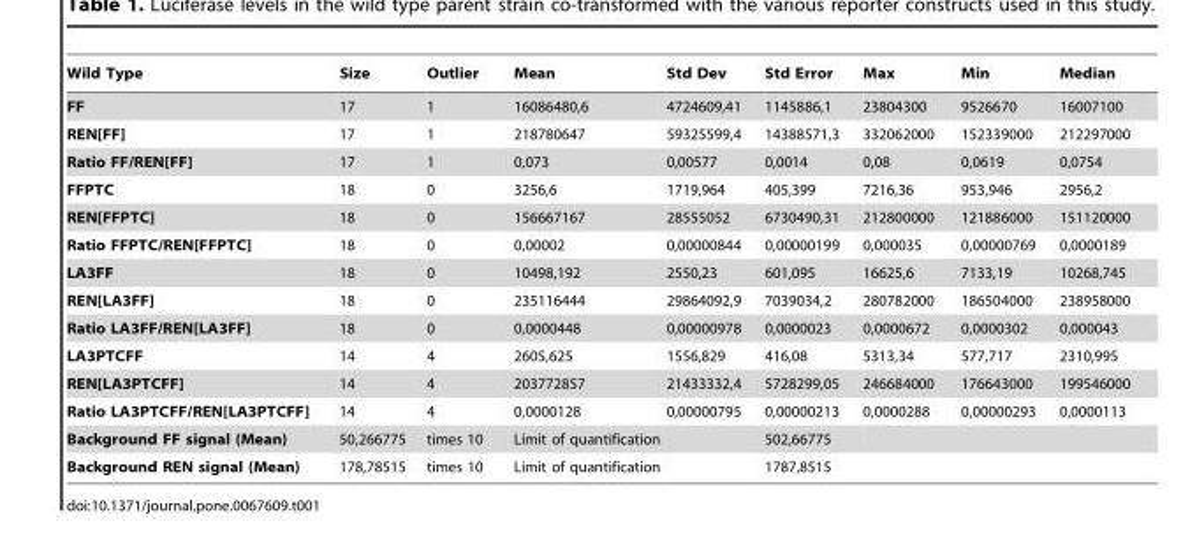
<table><thead><tr><td>Wild Type</td><td>Size</td><td>Outlier</td><td>Mean</td><td>Std Dev</td><td>Std Error</td><td>Max</td><td>Min</td><td>Median</td></tr></thead><tbody><tr><td>FF</td><td>17</td><td>1</td><td>16086480,6</td><td>4724609,41</td><td>1145886,1</td><td>23804300</td><td>9526670</td><td>16007100</td></tr><tr><td>REN[FF]</td><td>17</td><td>1</td><td>218780647</td><td>59325599,4</td><td>14388571,3</td><td>332062000</td><td>152339000</td><td>212297000</td></tr><tr><td>Ratio FF/REN[FF]</td><td>17</td><td>1</td><td>0,073</td><td>0,00577</td><td>0,0014</td><td>0,08</td><td>0,0619</td><td>0,0754</td></tr><tr><td>FFPTC</td><td>18</td><td>0</td><td>3256,6</td><td>1719,964</td><td>405,399</td><td>7216,36</td><td>953,946</td><td>2956,2</td></tr><tr><td>REN[FFPTC]</td><td>18</td><td>0</td><td>156667167</td><td>28555052</td><td>6730490,31</td><td>212800000</td><td>121886000</td><td>151120000</td></tr><tr><td>Ratio FFPTC/REN[FFPTC]</td><td>18</td><td>0</td><td>0,00002</td><td>0,00000844</td><td>0,00000199</td><td>0,000035</td><td>0,00000769</td><td>0,0000189</td></tr><tr><td>LA3FF</td><td>18</td><td>0</td><td>10498,192</td><td>2550,23</td><td>601,095</td><td>16625,6</td><td>7133,19</td><td>10268,745</td></tr><tr><td>REN[LA3FF]</td><td>18</td><td>0</td><td>235116444</td><td>29864092,9</td><td>7039034,2</td><td>280782000</td><td>186504000</td><td>238958000</td></tr><tr><td>Ratio LA3FF/REN[LA3FF]</td><td>18</td><td>0</td><td>0,0000448</td><td>0,00000978</td><td>0,0000023</td><td>0,0000672</td><td>0,0000302</td><td>0,000043</td></tr><tr><td>LA3PTCFF</td><td>14</td><td>4</td><td>2605,625</td><td>1556,829</td><td>416,08</td><td>5313,34</td><td>577,717</td><td>2310,995</td></tr><tr><td>REN[LA3PTCFF]</td><td>14</td><td>4</td><td>203772857</td><td>21433332,4</td><td>5728299,05</td><td>246684000</td><td>176643000</td><td>199546000</td></tr><tr><td>Ratio LA3PTCFF/REN[LA3PTCFF]</td><td>14</td><td>4</td><td>0,0000128</td><td>0,00000795</td><td>0,00000213</td><td>0,0000288</td><td>0,00000293</td><td>0,0000113</td></tr><tr><td>Background FF signal (Mean)</td><td>50,266775</td><td>times 10</td><td colspan="2">Limit of quantification</td><td>502,66775</td><td></td><td></td><td></td></tr><tr><td>Background REN signal (Mean)</td><td>178,78515</td><td>times 10</td><td colspan="2">Limit of quantification</td><td>1787,8515</td><td></td><td></td><td></td></tr></tbody></table>